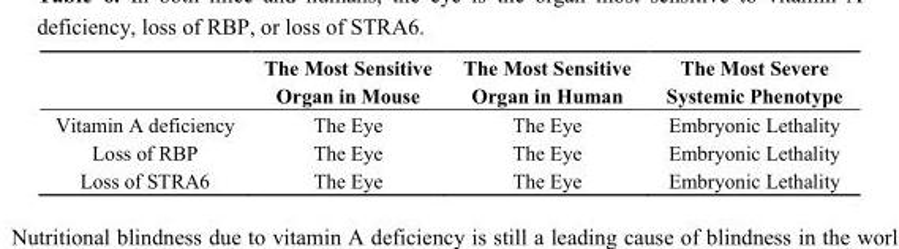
<table><thead><tr><td></td><td>The Most Sensitive Organ in Mouse</td><td>The Most Sensitive Organ in Human</td><td>The Most Severe Systemic Phenotype</td></tr></thead><tbody><tr><td>Vitamin A deficiency</td><td>The Eye</td><td>The Eye</td><td>Embryonic Lethality</td></tr><tr><td>Loss of RBP</td><td>The Eye</td><td>The Eye</td><td>Embryonic Lethality</td></tr><tr><td>Loss of STRA6</td><td>The Eye</td><td>The Eye</td><td>Embryonic Lethality</td></tr></tbody></table>